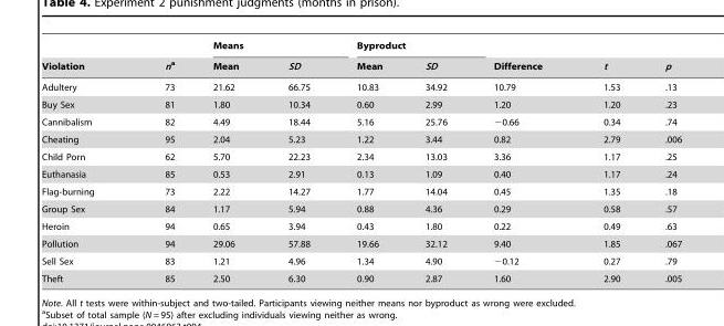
<table><thead><tr><td rowspan="2">Violation</td><td rowspan="2">na</td><td colspan="2">Means</td><td colspan="2">Byproduct</td><td rowspan="2">Difference</td><td rowspan="2">t</td><td rowspan="2">p</td></tr><tr><td>Mean</td><td>SD</td><td>Mean</td><td>SD</td></tr></thead><tbody><tr><td>Adultery</td><td>73</td><td>21.62</td><td>66.75</td><td>10.83</td><td>34.92</td><td>10.79</td><td>1.53</td><td>.13</td></tr><tr><td>Buy Sex</td><td>81</td><td>1.80</td><td>10.34</td><td>0.60</td><td>2.99</td><td>1.20</td><td>1.20</td><td>.23</td></tr><tr><td>Cannibalism</td><td>82</td><td>4.49</td><td>18.44</td><td>5.16</td><td>25.76</td><td>−0.66</td><td>0.34</td><td>.74</td></tr><tr><td>Cheating</td><td>95</td><td>2.04</td><td>5.23</td><td>1.22</td><td>3.44</td><td>0.82</td><td>2.79</td><td>.006</td></tr><tr><td>Child Porn</td><td>62</td><td>5.70</td><td>22.23</td><td>2.34</td><td>13.03</td><td>3.36</td><td>1.17</td><td>.25</td></tr><tr><td>Euthanasia</td><td>85</td><td>0.53</td><td>2.91</td><td>0.13</td><td>1.09</td><td>0.40</td><td>1.17</td><td>.24</td></tr><tr><td>Flag-burning</td><td>73</td><td>2.22</td><td>14.27</td><td>1.77</td><td>14.04</td><td>0.45</td><td>1.35</td><td>.18</td></tr><tr><td>Group Sex</td><td>84</td><td>1.17</td><td>5.94</td><td>0.88</td><td>4.36</td><td>0.29</td><td>0.58</td><td>.57</td></tr><tr><td>Heroin</td><td>94</td><td>0.65</td><td>3.94</td><td>0.43</td><td>1.80</td><td>0.22</td><td>0.49</td><td>.63</td></tr><tr><td>Pollution</td><td>94</td><td>29.06</td><td>57.88</td><td>19.66</td><td>32.12</td><td>9.40</td><td>1.85</td><td>.067</td></tr><tr><td>Sell Sex</td><td>83</td><td>1.21</td><td>4.96</td><td>1.34</td><td>4.90</td><td>−0.12</td><td>0.27</td><td>.79</td></tr><tr><td>Theft</td><td>85</td><td>2.50</td><td>6.30</td><td>0.90</td><td>2.87</td><td>1.60</td><td>2.90</td><td>.005</td></tr></tbody></table>